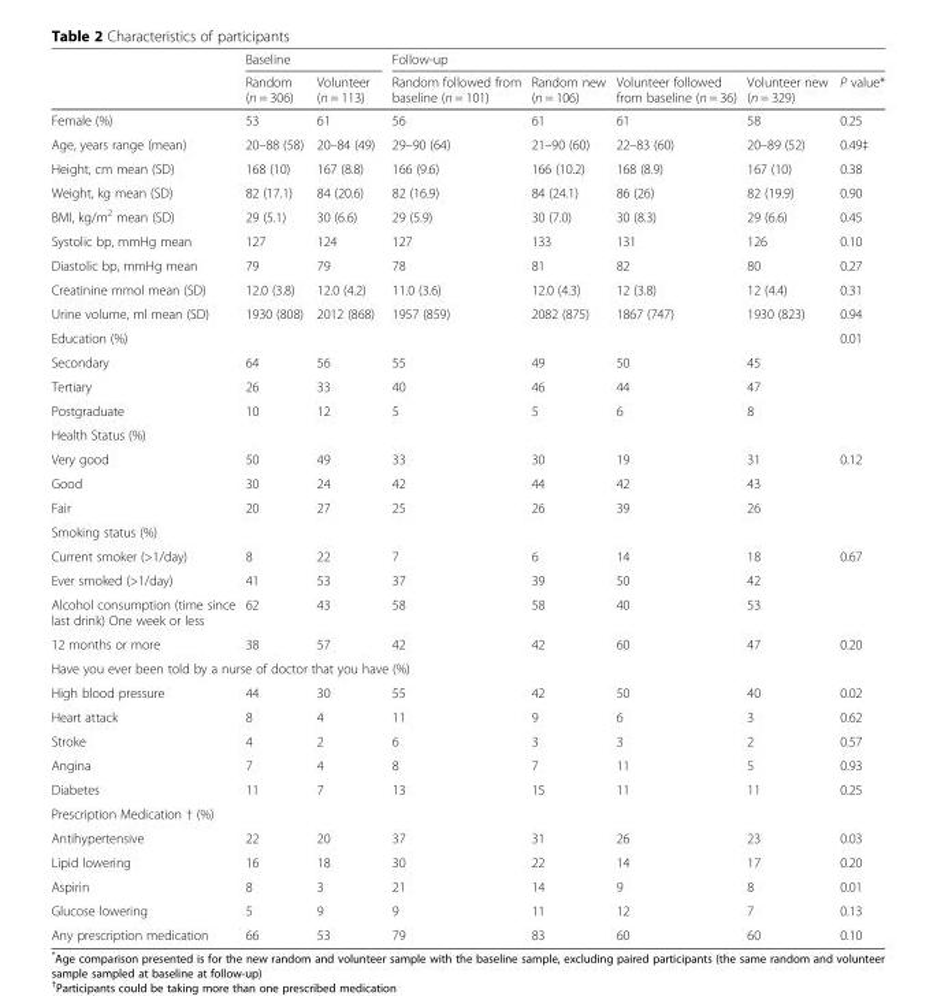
<table><thead><tr><td rowspan="2"></td><td colspan="2">Baseline</td><td colspan="5">Follow-up</td></tr><tr><td>Random (n = 306)</td><td>Volunteer (n = 113)</td><td>Random followed from baseline (n = 101)</td><td>Random new (n = 106)</td><td>Volunteer followed from baseline (n = 36)</td><td>Volunteer new (n = 329)</td><td>P value*</td></tr></thead><tbody><tr><td>Female (%)</td><td>53</td><td>61</td><td>56</td><td>61</td><td>61</td><td>58</td><td>0.25</td></tr><tr><td>Age, years range (mean)</td><td>20–88 (58)</td><td>20–84 (49)</td><td>29–90 (64)</td><td>21–90 (60)</td><td>22–83 (60)</td><td>20–89 (52)</td><td>0.49‡</td></tr><tr><td>Height, cm mean (SD)</td><td>168 (10)</td><td>167 (8.8)</td><td>166 (9.6)</td><td>166 (10.2)</td><td>168 (8.9)</td><td>167 (10)</td><td>0.38</td></tr><tr><td>Weight, kg mean (SD)</td><td>82 (17.1)</td><td>84 (20.6)</td><td>82 (16.9)</td><td>84 (24.1)</td><td>86 (26)</td><td>82 (19.9)</td><td>0.90</td></tr><tr><td>BMI, kg/m<sup>2</sup> mean (SD)</td><td>29 (5.1)</td><td>30 (6.6)</td><td>29 (5.9)</td><td>30 (7.0)</td><td>30 (8.3)</td><td>29 (6.6)</td><td>0.45</td></tr><tr><td>Systolic bp, mmHg mean</td><td>127</td><td>124</td><td>127</td><td>133</td><td>131</td><td>126</td><td>0.10</td></tr><tr><td>Diastolic bp, mmHg mean</td><td>79</td><td>79</td><td>78</td><td>81</td><td>82</td><td>80</td><td>0.27</td></tr><tr><td>Creatinine mmol mean (SD)</td><td>12.0 (3.8)</td><td>12.0 (4.2)</td><td>11.0 (3.6)</td><td>12.0 (4.3)</td><td>12 (3.8)</td><td>12 (4.4)</td><td>0.31</td></tr><tr><td>Urine volume, ml mean (SD)</td><td>1930 (808)</td><td>2012 (868)</td><td>1957 (859)</td><td>2082 (875)</td><td>1867 (747)</td><td>1930 (823)</td><td>0.94</td></tr><tr><td>Education (%)</td><td></td><td></td><td></td><td></td><td></td><td></td><td>0.01</td></tr><tr><td>Secondary</td><td>64</td><td>56</td><td>55</td><td>49</td><td>50</td><td>45</td><td></td></tr><tr><td>Tertiary</td><td>26</td><td>33</td><td>40</td><td>46</td><td>44</td><td>47</td><td></td></tr><tr><td>Postgraduate</td><td>10</td><td>12</td><td>5</td><td>5</td><td>6</td><td>8</td><td></td></tr><tr><td colspan="8">Health Status (%)</td></tr><tr><td>Very good</td><td>50</td><td>49</td><td>33</td><td>30</td><td>19</td><td>31</td><td>0.12</td></tr><tr><td>Good</td><td>30</td><td>24</td><td>42</td><td>44</td><td>42</td><td>43</td><td></td></tr><tr><td>Fair</td><td>20</td><td>27</td><td>25</td><td>26</td><td>39</td><td>26</td><td></td></tr><tr><td colspan="8">Smoking status (%)</td></tr><tr><td>Current smoker (&gt;1/day)</td><td>8</td><td>22</td><td>7</td><td>6</td><td>14</td><td>18</td><td>0.67</td></tr><tr><td>Ever smoked (&gt;1/day)</td><td>41</td><td>53</td><td>37</td><td>39</td><td>50</td><td>42</td><td></td></tr><tr><td>Alcohol consumption (time since last drink) One week or less</td><td>62</td><td>43</td><td>58</td><td>58</td><td>40</td><td>53</td><td></td></tr><tr><td>12 months or more</td><td>38</td><td>57</td><td>42</td><td>42</td><td>60</td><td>47</td><td>0.20</td></tr><tr><td colspan="8">Have you ever been told by a nurse of doctor that you have (%)</td></tr><tr><td>High blood pressure</td><td>44</td><td>30</td><td>55</td><td>42</td><td>50</td><td>40</td><td>0.02</td></tr><tr><td>Heart attack</td><td>8</td><td>4</td><td>11</td><td>9</td><td>6</td><td>3</td><td>0.62</td></tr><tr><td>Stroke</td><td>4</td><td>2</td><td>6</td><td>3</td><td>3</td><td>2</td><td>0.57</td></tr><tr><td>Angina</td><td>7</td><td>4</td><td>8</td><td>7</td><td>11</td><td>5</td><td>0.93</td></tr><tr><td>Diabetes</td><td>11</td><td>7</td><td>13</td><td>15</td><td>11</td><td>11</td><td>0.25</td></tr><tr><td colspan="8">Prescription Medication † (%)</td></tr><tr><td>Antihypertensive</td><td>22</td><td>20</td><td>37</td><td>31</td><td>26</td><td>23</td><td>0.03</td></tr><tr><td>Lipid lowering</td><td>16</td><td>18</td><td>30</td><td>22</td><td>14</td><td>17</td><td>0.20</td></tr><tr><td>Aspirin</td><td>8</td><td>3</td><td>21</td><td>14</td><td>9</td><td>8</td><td>0.01</td></tr><tr><td>Glucose lowering</td><td>5</td><td>9</td><td>9</td><td>11</td><td>12</td><td>7</td><td>0.13</td></tr><tr><td>Any prescription medication</td><td>66</td><td>53</td><td>79</td><td>83</td><td>60</td><td>60</td><td>0.10</td></tr></tbody></table>